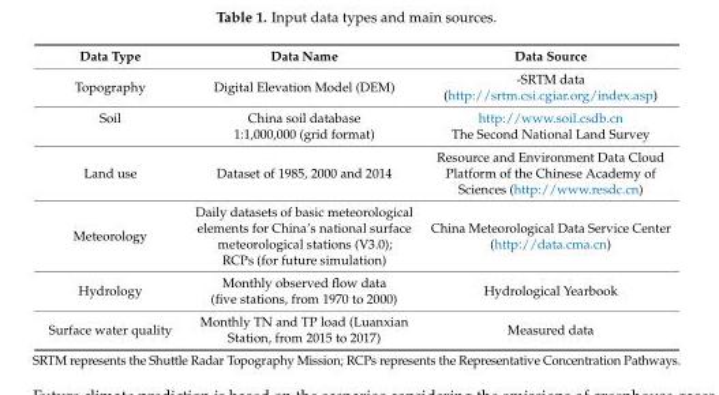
<table><thead><tr><td>Data Type</td><td>Data Name</td><td>Data Source</td></tr></thead><tbody><tr><td>Topography</td><td>Digital Elevation Model (DEM)</td><td>-SRTM data (http://srtm.csi.cgiar.org/index.asp)</td></tr><tr><td rowspan="2">Soil</td><td>China soil database</td><td>http://www.soil.csdb.cn</td></tr><tr><td>1:1,000,000 (grid format)</td><td>The Second National Land Survey</td></tr><tr><td>Land use</td><td>Dataset of 1985, 2000 and 2014</td><td>Resource and Environment Data Cloud Platform of the Chinese Academy of Sciences (http://www.resdc.cn)</td></tr><tr><td>Meteorology</td><td>Daily datasets of basic meteorological elements for China’s national surface meteorological stations (V3.0); RCPs (for future simulation)</td><td>China Meteorological Data Service Center (http://data.cma.cn)</td></tr><tr><td>Hydrology</td><td>Monthly observed flow data (five stations, from 1970 to 2000)</td><td>Hydrological Yearbook</td></tr><tr><td>Surface water quality</td><td>Monthly TN and TP load (Luanxian Station, from 2015 to 2017)</td><td>Measured data</td></tr></tbody></table>